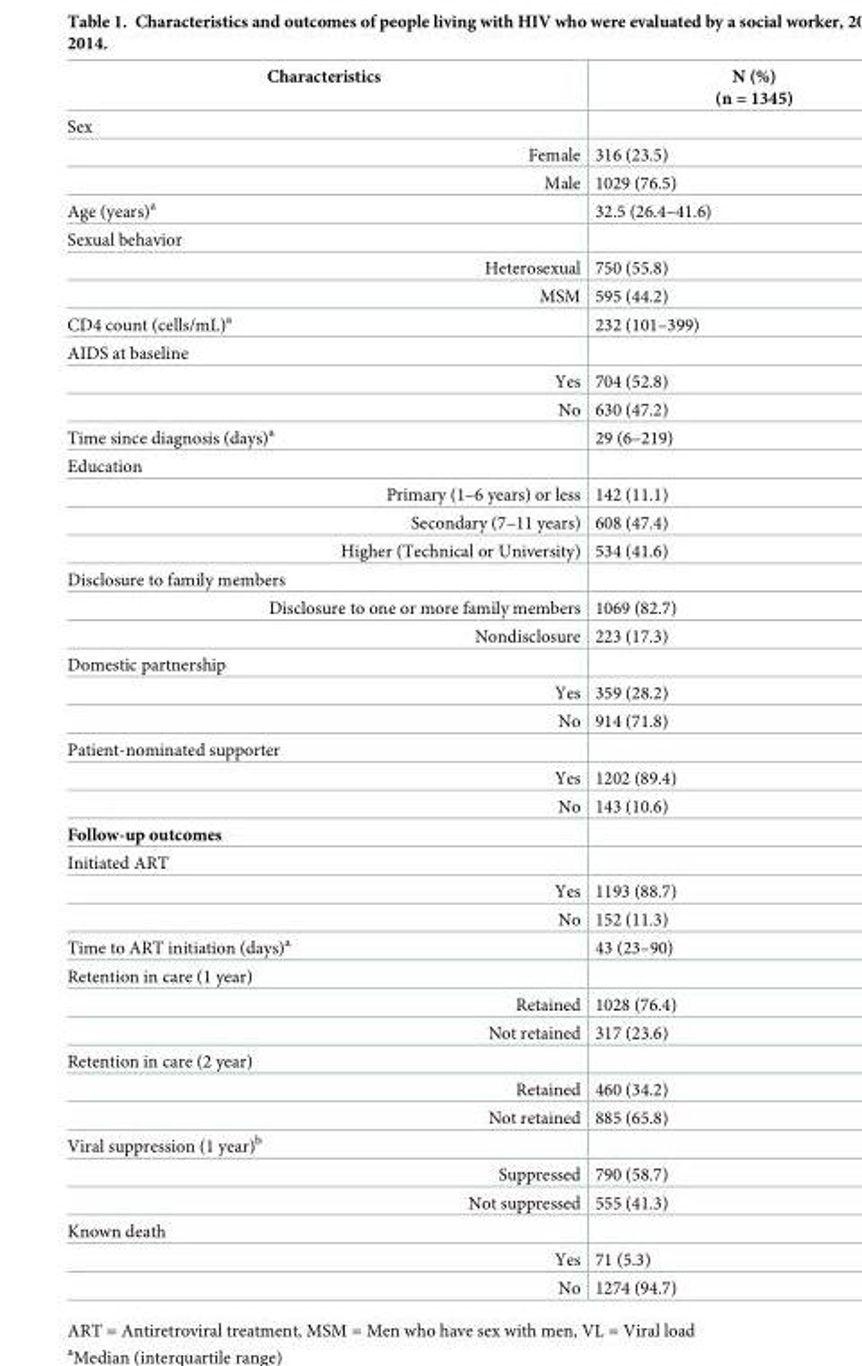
<table><thead><tr><td>Characteristics</td><td>N (%) (n = 1345)</td></tr></thead><tbody><tr><td colspan="2">Sex</td></tr><tr><td>Female</td><td>316 (23.5)</td></tr><tr><td>Male</td><td>1029 (76.5)</td></tr><tr><td>Age (years)<sup>a</sup></td><td>32.5 (26.4–41.6)</td></tr><tr><td colspan="2">Sexual behavior</td></tr><tr><td>Heterosexual</td><td>750 (55.8)</td></tr><tr><td>MSM</td><td>595 (44.2)</td></tr><tr><td>CD4 count (cells/mL)<sup>a</sup></td><td>232 (101–399)</td></tr><tr><td colspan="2">AIDS at baseline</td></tr><tr><td>Yes</td><td>704 (52.8)</td></tr><tr><td>No</td><td>630 (47.2)</td></tr><tr><td>Time since diagnosis (days)<sup>a</sup></td><td>29 (6–219)</td></tr><tr><td colspan="2">Education</td></tr><tr><td>Primary (1–6 years) or less</td><td>142 (11.1)</td></tr><tr><td>Secondary (7–11 years)</td><td>608 (47.4)</td></tr><tr><td>Higher (Technical or University)</td><td>534 (41.6)</td></tr><tr><td colspan="2">Disclosure to family members</td></tr><tr><td>Disclosure to one or more family members</td><td>1069 (82.7)</td></tr><tr><td>Nondisclosure</td><td>223 (17.3)</td></tr><tr><td colspan="2">Domestic partnership</td></tr><tr><td>Yes</td><td>359 (28.2)</td></tr><tr><td>No</td><td>914 (71.8)</td></tr><tr><td colspan="2">Patient-nominated supporter</td></tr><tr><td>Yes</td><td>1202 (89.4)</td></tr><tr><td>No</td><td>143 (10.6)</td></tr><tr><td colspan="2">Follow-up outcomes</td></tr><tr><td colspan="2">Initiated ART</td></tr><tr><td>Yes</td><td>1193 (88.7)</td></tr><tr><td>No</td><td>152 (11.3)</td></tr><tr><td>Time to ART initiation (days)<sup>a</sup></td><td>43 (23–90)</td></tr><tr><td colspan="2">Retention in care (1 year)</td></tr><tr><td>Retained</td><td>1028 (76.4)</td></tr><tr><td>Not retained</td><td>317 (23.6)</td></tr><tr><td colspan="2">Retention in care (2 year)</td></tr><tr><td>Retained</td><td>460 (34.2)</td></tr><tr><td>Not retained</td><td>885 (65.8)</td></tr><tr><td colspan="2">Viral suppression (1 year)<sup>b</sup></td></tr><tr><td>Suppressed</td><td>790 (58.7)</td></tr><tr><td>Not suppressed</td><td>555 (41.3)</td></tr><tr><td colspan="2">Known death</td></tr><tr><td>Yes</td><td>71 (5.3)</td></tr><tr><td>No</td><td>1274 (94.7)</td></tr></tbody></table>